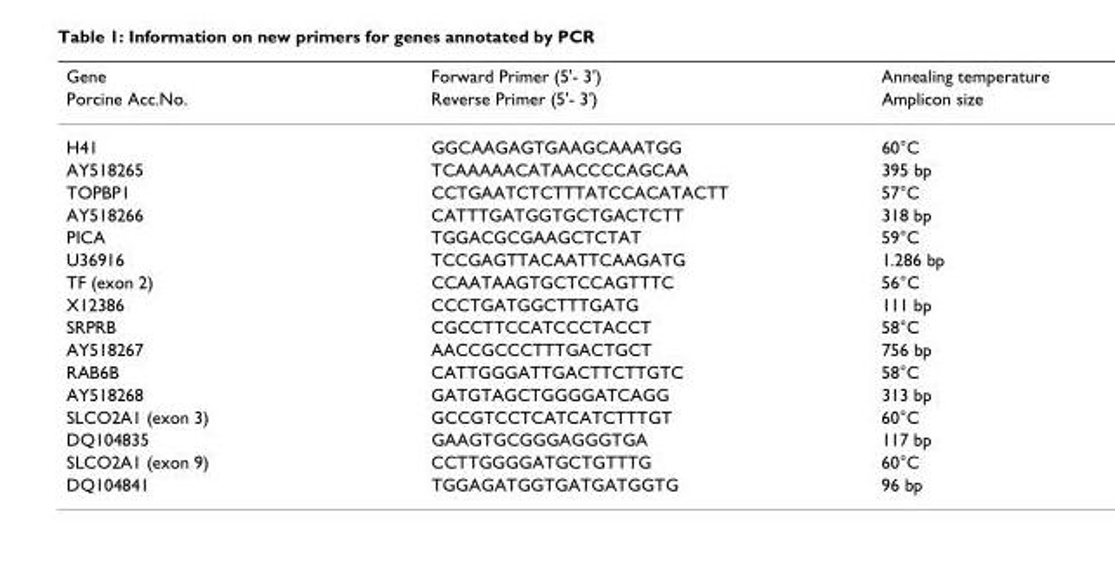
<table><thead><tr><td rowspan="2">Gene Porcine Acc.No.</td><td rowspan="2">Forward Primer (5&#x27;- 3&#x27;) Reverse Primer (5&#x27;- 3&#x27;)</td><td rowspan="2">Annealing temperature Amplicon size</td></tr><tr></tr></thead><tbody><tr><td>H41</td><td>GGCAAGAGTGAAGCAAATGG</td><td>60°C</td></tr><tr><td>AY518265</td><td>TCAAAAACATAACCCCAGCAA</td><td>395 bp</td></tr><tr><td>TOPBP1</td><td>CCTGAATCTCTTTATCCACATACTT</td><td>57°C</td></tr><tr><td>AY518266</td><td>CATTTGATGGTGCTGACTCTT</td><td>318 bp</td></tr><tr><td>PICA</td><td>TGGACGCGAAGCTCTAT</td><td>59°C</td></tr><tr><td>U36916</td><td>TCCGAGTTACAATTCAAGATG</td><td>1.286 bp</td></tr><tr><td>TF (exon 2)</td><td>CCAATAAGTGCTCCAGTTTC</td><td>56°C</td></tr><tr><td>X12386</td><td>CCCTGATGGCTTTGATG</td><td>111 bp</td></tr><tr><td>SRPRB</td><td>CGCCTTCCATCCCTACCT</td><td>58°C</td></tr><tr><td>AY518267</td><td>AACCGCCCTTTGACTGCT</td><td>756 bp</td></tr><tr><td>RAB6B</td><td>CATTGGGATTGACTTCTTGTC</td><td>58°C</td></tr><tr><td>AY518268</td><td>GATGTAGCTGGGGATCAGG</td><td>313 bp</td></tr><tr><td>SLCO2A1 (exon 3)</td><td>GCCGTCCTCATCATCTTTGT</td><td>60°C</td></tr><tr><td>DQ104835</td><td>GAAGTGCGGGAGGGTGA</td><td>117 bp</td></tr><tr><td>SLCO2A1 (exon 9)</td><td>CCTTGGGGATGCTGTTTG</td><td>60°C</td></tr><tr><td>DQ104841</td><td>TGGAGATGGTGATGATGGTG</td><td>96 bp</td></tr></tbody></table>